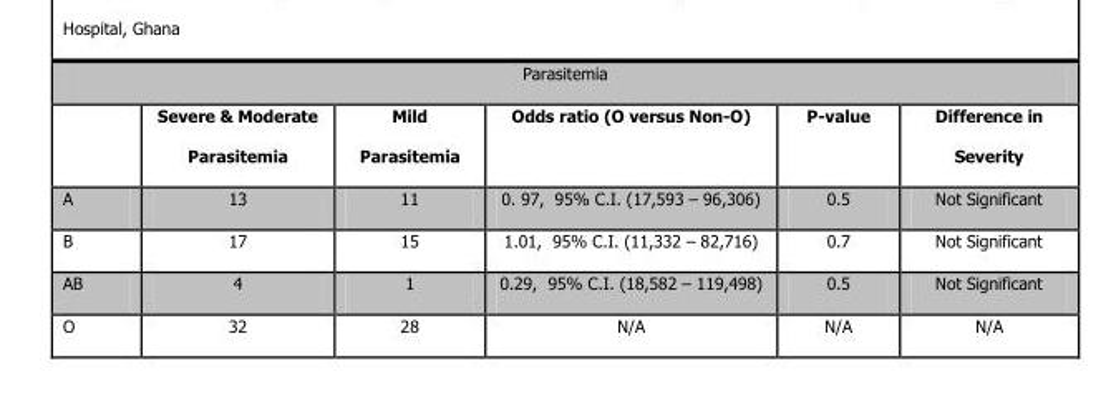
<table><thead><tr><td colspan="6">Parasitemia</td></tr><tr><td></td><td>Severe &amp; Moderate Parasitemia</td><td>Mild Parasitemia</td><td>Odds ratio (O versus Non-O)</td><td>P-value</td><td>Difference in Severity</td></tr></thead><tbody><tr><td>A</td><td>13</td><td>11</td><td>0. 97, 95% C.I. (17,593 – 96,306)</td><td>0.5</td><td>Not Significant</td></tr><tr><td>B</td><td>17</td><td>15</td><td>1.01, 95% C.I. (11,332 – 82,716)</td><td>0.7</td><td>Not Significant</td></tr><tr><td>AB</td><td>4</td><td>1</td><td>0.29, 95% C.I. (18,582 – 119,498)</td><td>0.5</td><td>Not Significant</td></tr><tr><td>O</td><td>32</td><td>28</td><td>N/A</td><td>N/A</td><td>N/A</td></tr></tbody></table>